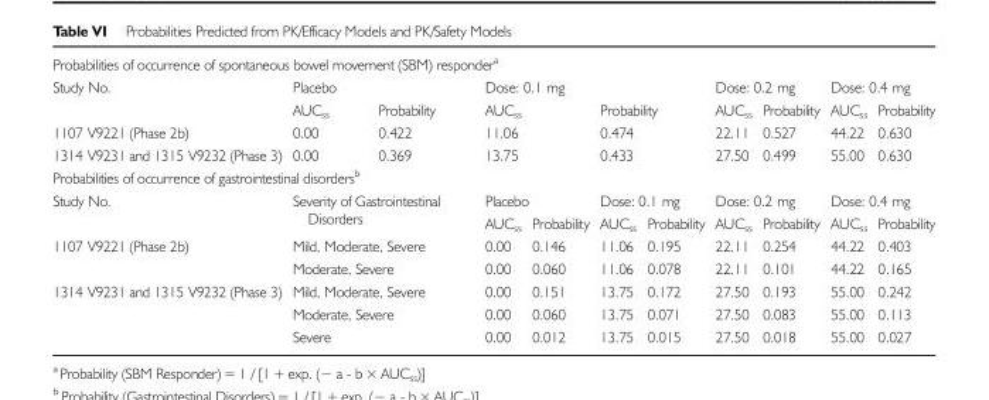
<table><tbody><tr><td colspan="11">Probabilities of occurrence of spontaneous bowel movement (SBM) responder<sup>a</sup></td></tr><tr><td rowspan="2">Study No.</td><td colspan="2">Placebo</td><td colspan="4">Dose: 0.1 mg</td><td colspan="2">Dose: 0.2 mg</td><td colspan="2">Dose: 0.4 mg</td></tr><tr><td>AUC<sub>ss</sub></td><td>Probability</td><td colspan="2">AUC<sub>ss</sub></td><td colspan="2">Probability</td><td>AUC<sub>ss</sub></td><td>Probability</td><td>AUC<sub>ss</sub></td><td>Probability</td></tr><tr><td>1107 V9221 (Phase 2b)</td><td>0.00</td><td>0.422</td><td colspan="2">11.06</td><td colspan="2">0.474</td><td>22.11</td><td>0.527</td><td>44.22</td><td>0.630</td></tr><tr><td>1314 V9231 and 1315 V9232 (Phase 3)</td><td>0.00</td><td>0.369</td><td colspan="2">13.75</td><td colspan="2">0.433</td><td>27.50</td><td>0.499</td><td>55.00</td><td>0.630</td></tr><tr><td colspan="11">Probabilities of occurrence of gastrointestinal disorders<sup>b</sup></td></tr><tr><td rowspan="2">Study No.</td><td rowspan="2" colspan="2">Severity of Gastrointestinal Disorders</td><td colspan="2">Placebo</td><td colspan="2">Dose: 0.1 mg</td><td colspan="2">Dose: 0.2 mg</td><td colspan="2">Dose: 0.4 mg</td></tr><tr><td>AUC<sub>ss</sub></td><td>Probability</td><td>AUC<sub>ss</sub></td><td>Probability</td><td>AUC<sub>ss</sub></td><td>Probability</td><td>AUC<sub>ss</sub></td><td>Probability</td></tr><tr><td rowspan="2">1107 V9221 (Phase 2b)</td><td colspan="2">Mild, Moderate, Severe</td><td>0.00</td><td>0.146</td><td>11.06</td><td>0.195</td><td>22.11</td><td>0.254</td><td>44.22</td><td>0.403</td></tr><tr><td colspan="2">Moderate, Severe</td><td>0.00</td><td>0.060</td><td>11.06</td><td>0.078</td><td>22.11</td><td>0.101</td><td>44.22</td><td>0.165</td></tr><tr><td rowspan="3">1314 V9231 and 1315 V9232 (Phase 3)</td><td colspan="2">Mild, Moderate, Severe</td><td>0.00</td><td>0.151</td><td>13.75</td><td>0.172</td><td>27.50</td><td>0.193</td><td>55.00</td><td>0.242</td></tr><tr><td colspan="2">Moderate, Severe</td><td>0.00</td><td>0.060</td><td>13.75</td><td>0.071</td><td>27.50</td><td>0.083</td><td>55.00</td><td>0.113</td></tr><tr><td colspan="2">Severe</td><td>0.00</td><td>0.012</td><td>13.75</td><td>0.015</td><td>27.50</td><td>0.018</td><td>55.00</td><td>0.027</td></tr></tbody></table>